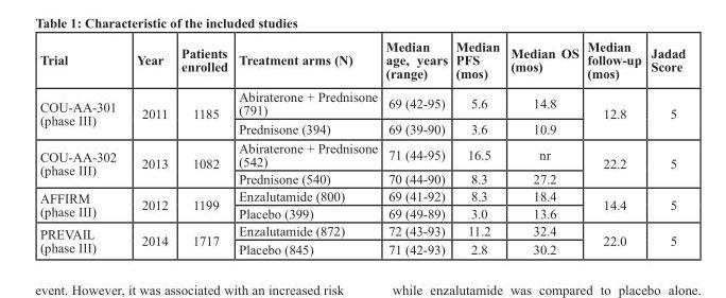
<table><thead><tr><td>Trial</td><td>Year</td><td>Patients enrolled</td><td>Treatment arms (N)</td><td>Median age, years (range)</td><td>Median PFS (mos)</td><td>Median OS (mos)</td><td>Median follow-up (mos)</td><td>Jadad Score</td></tr></thead><tbody><tr><td rowspan="2">COU-AA-301 (phase III)</td><td rowspan="2">2011</td><td rowspan="2">1185</td><td>Abiraterone + Prednisone (791)</td><td>69 (42-95)</td><td>5.6</td><td>14.8</td><td rowspan="2">12.8</td><td rowspan="2">5</td></tr><tr><td>Prednisone (394)</td><td>69 (39-90)</td><td>3.6</td><td>10.9</td></tr><tr><td rowspan="2">COU-AA-302 (phase III)</td><td rowspan="2">2013</td><td rowspan="2">1082</td><td>Abiraterone + Prednisone (542)</td><td>71 (44-95)</td><td>16.5</td><td>nr</td><td rowspan="2">22.2</td><td rowspan="2">5</td></tr><tr><td>Prednisone (540)</td><td>70 (44-90)</td><td>8.3</td><td>27.2</td></tr><tr><td rowspan="2">AFFIRM (phase III)</td><td rowspan="2">2012</td><td rowspan="2">1199</td><td>Enzalutamide (800)</td><td>69 (41-92)</td><td>8.3</td><td>18.4</td><td rowspan="2">14.4</td><td rowspan="2">5</td></tr><tr><td>Placebo (399)</td><td>69 (49-89)</td><td>3.0</td><td>13.6</td></tr><tr><td rowspan="2">PREVAIL (phase III)</td><td rowspan="2">2014</td><td rowspan="2">1717</td><td>Enzalutamide (872)</td><td>72 (43-93)</td><td>11.2</td><td>32.4</td><td rowspan="2">22.0</td><td rowspan="2">5</td></tr><tr><td>Placebo (845)</td><td>71 (42-93)</td><td>2.8</td><td>30.2</td></tr></tbody></table>